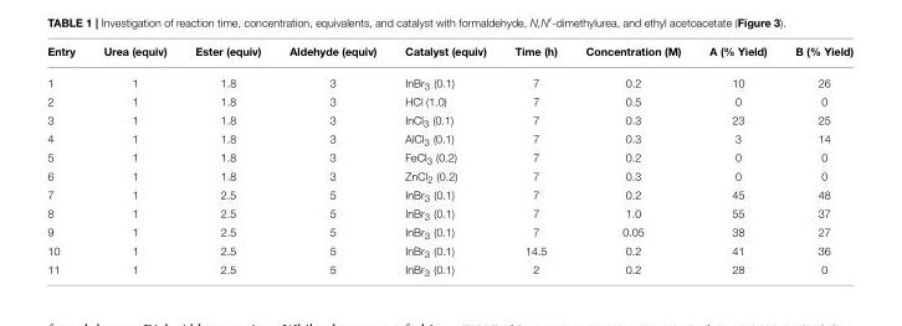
<table><thead><tr><td>Entry</td><td>Urea (equiv)</td><td>Ester (equiv)</td><td>Aldehyde (equiv)</td><td>Catalyst (equiv)</td><td>Time (h)</td><td>Concentration (M)</td><td>A (% Yield)</td><td>B (% Yield)</td></tr></thead><tbody><tr><td>1</td><td>1</td><td>1.8</td><td>3</td><td>InBr<sub>3</sub> (0.1)</td><td>7</td><td>0.2</td><td>10</td><td>26</td></tr><tr><td>2</td><td>1</td><td>1.8</td><td>3</td><td>HCl (1.0)</td><td>7</td><td>0.5</td><td>0</td><td>0</td></tr><tr><td>3</td><td>1</td><td>1.8</td><td>3</td><td>InCl<sub>3</sub> (0.1)</td><td>7</td><td>0.3</td><td>23</td><td>25</td></tr><tr><td>4</td><td>1</td><td>1.8</td><td>3</td><td>AlCl<sub>3</sub> (0.1)</td><td>7</td><td>0.3</td><td>3</td><td>14</td></tr><tr><td>5</td><td>1</td><td>1.8</td><td>3</td><td>FeCl<sub>3</sub> (0.2)</td><td>7</td><td>0.2</td><td>0</td><td>0</td></tr><tr><td>6</td><td>1</td><td>1.8</td><td>3</td><td>ZnCl<sub>2</sub> (0.2)</td><td>7</td><td>0.3</td><td>0</td><td>0</td></tr><tr><td>7</td><td>1</td><td>2.5</td><td>5</td><td>InBr<sub>3</sub> (0.1)</td><td>7</td><td>0.2</td><td>45</td><td>48</td></tr><tr><td>8</td><td>1</td><td>2.5</td><td>5</td><td>InBr<sub>3</sub> (0.1)</td><td>7</td><td>1.0</td><td>55</td><td>37</td></tr><tr><td>9</td><td>1</td><td>2.5</td><td>5</td><td>InBr<sub>3</sub> (0.1)</td><td>7</td><td>0.05</td><td>38</td><td>27</td></tr><tr><td>10</td><td>1</td><td>2.5</td><td>5</td><td>InBr<sub>3</sub> (0.1)</td><td>14.5</td><td>0.2</td><td>41</td><td>36</td></tr><tr><td>11</td><td>1</td><td>2.5</td><td>5</td><td>InBr<sub>3</sub> (0.1)</td><td>2</td><td>0.2</td><td>28</td><td>0</td></tr></tbody></table>